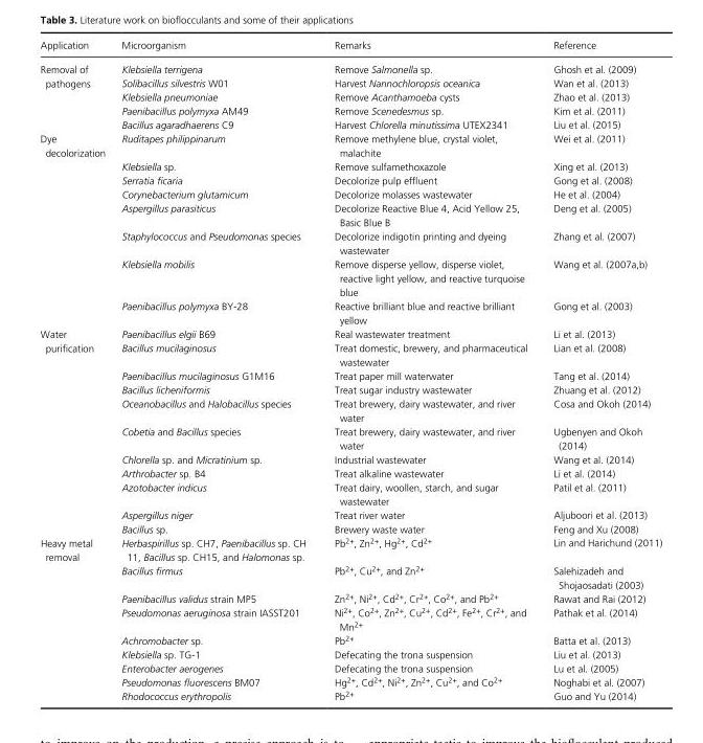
<table><thead><tr><td>Application</td><td>Microorganism</td><td>Remarks</td><td>Reference</td></tr></thead><tbody><tr><td rowspan="5">Removal of pathogens</td><td>Klebsiella terrigena</td><td>Remove Salmonella sp.</td><td>Ghosh et al. (2009)</td></tr><tr><td>Solibacillus silvestris W01</td><td>Harvest Nannochloropsis oceanica</td><td>Wan et al. (2013)</td></tr><tr><td>Klebsiella pneumoniae</td><td>Remove Acanthamoeba cysts</td><td>Zhao et al. (2013)</td></tr><tr><td>Paenibacillus polymyxa AM49</td><td>Remove Scenedesmus sp.</td><td>Kim et al. (2011)</td></tr><tr><td>Bacillus agaradhaerens C9</td><td>Harvest Chlorella minutissima UTEX2341</td><td>Liu et al. (2015)</td></tr><tr><td rowspan="8">Dye decolorization</td><td>Ruditapes philippinarum</td><td>Remove methylene blue, crystal violet, malachite</td><td>Wei et al. (2011)</td></tr><tr><td>Klebsiella sp.</td><td>Remove sulfamethoxazole</td><td>Xing et al. (2013)</td></tr><tr><td>Serratia ficaria</td><td>Decolorize pulp effluent</td><td>Gong et al. (2008)</td></tr><tr><td>Corynebacterium glutamicum</td><td>Decolorize molasses wastewater</td><td>He et al. (2004)</td></tr><tr><td>Aspergillus parasiticus</td><td>Decolorize Reactive Blue 4, Acid Yellow 25, Basic Blue B</td><td>Deng et al. (2005)</td></tr><tr><td>Staphylococcus and Pseudomonas species</td><td>Decolorize indigotin printing and dyeing wastewater</td><td>Zhang et al. (2007)</td></tr><tr><td>Klebsiella mobilis</td><td>Remove disperse yellow, disperse violet, reactive light yellow, and reactive turquoise blue</td><td>Wang et al. (2007a,b)</td></tr><tr><td>Paenibacillus polymyxa BY- 28</td><td>Reactive brilliant blue and reactive brilliant yellow</td><td>Gong et al. (2003)</td></tr><tr><td rowspan="11">Water purification</td><td>Paenibacillus elgii B69</td><td>Real wastewater treatment</td><td>Li et al. (2013)</td></tr><tr><td>Bacillus mucilaginosus</td><td>Treat domestic, brewery, and pharmaceutical wastewater</td><td>Lian et al. (2008)</td></tr><tr><td>Paenibacillus mucilaginosus G1M16</td><td>Treat paper mill waterwater</td><td>Tang et al. (2014)</td></tr><tr><td>Bacillus licheniformis</td><td>Treat sugar industry wastewater</td><td>Zhuang et al. (2012)</td></tr><tr><td>Oceanobacillus and Halobacillus species</td><td>Treat brewery, dairy wastewater, and river water</td><td>Cosa and Okoh (2014)</td></tr><tr><td>Cobetia and Bacillus species</td><td>Treat brewery, dairy wastewater, and river water</td><td>Ugbenyen and Okoh (2014)</td></tr><tr><td>Chlorella sp. and Micratinium sp.</td><td>Industrial wastewater</td><td>Wang et al. (2014)</td></tr><tr><td>Arthrobacter sp. B4</td><td>Treat alkaline wastewater</td><td>Li et al. (2014)</td></tr><tr><td>Azotobacter indicus</td><td>Treat dairy, woollen, starch, and sugar wastewater</td><td>Patil et al. (2011)</td></tr><tr><td>Aspergillus niger</td><td>Treat river water</td><td>Aljuboori et al. (2013)</td></tr><tr><td>Bacillus sp.</td><td>Brewery waste water</td><td>Feng and Xu (2008)</td></tr><tr><td rowspan="9">Heavy metal removal</td><td>Herbaspirillus sp. CH7, Paenibacillus sp. CH 11, Bacillus sp. CH15, and Halomonas sp.</td><td>Pb<sup>2+</sup>, Zn<sup>2+</sup>, Hg<sup>2+</sup>, Cd<sup>2+</sup></td><td>Lin and Harichund (2011)</td></tr><tr><td>Bacillus firmus</td><td>Pb<sup>2+</sup>, Cu<sup>2+</sup>, and Zn<sup>2+</sup></td><td>Salehizadeh and Shojaosadati (2003)</td></tr><tr><td>Paenibacillus validus strain MP5</td><td>Zn<sup>2+</sup>, Ni<sup>2+</sup>, Cd<sup>2+</sup>, Cr<sup>2+</sup>, Co<sup>2+</sup>, and Pb<sup>2+</sup></td><td>Rawat and Rai (2012)</td></tr><tr><td>Pseudomonas aeruginosa strain IASST201</td><td>Ni<sup>2+</sup>, Co<sup>2+</sup>, Zn<sup>2+</sup>, Cu<sup>2+</sup>, Cd<sup>2+</sup>, Fe<sup>2+</sup>, Cr<sup>2+</sup>, and Mn<sup>2+</sup></td><td>Pathak et al. (2014)</td></tr><tr><td>Achromobacter sp.</td><td>Pb<sup>2+</sup></td><td>Batta et al. (2013)</td></tr><tr><td>Klebsiella sp. TG- 1</td><td>Defecating the trona suspension</td><td>Liu et al. (2013)</td></tr><tr><td>Enterobacter aerogenes</td><td>Defecating the trona suspension</td><td>Lu et al. (2005)</td></tr><tr><td>Pseudomonas fluorescens BM07</td><td>Hg<sup>2+</sup>, Cd<sup>2+</sup>, Ni<sup>2+</sup>, Zn<sup>2+</sup>, Cu<sup>2+</sup>, and Co<sup>2+</sup></td><td>Noghabi et al. (2007)</td></tr><tr><td>Rhodococcus erythropolis</td><td>Pb<sup>2+</sup></td><td>Guo and Yu (2014)</td></tr></tbody></table>